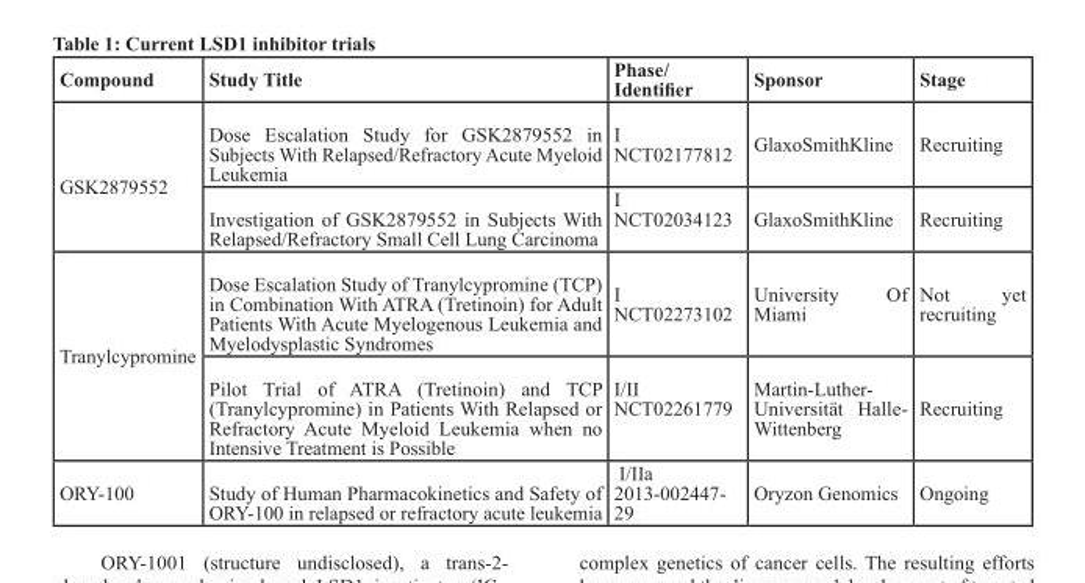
<table><thead><tr><td>Compound</td><td>Study Title</td><td>Phase/ Identifier</td><td>Sponsor</td><td>Stage</td></tr></thead><tbody><tr><td rowspan="2">GSK2879552</td><td>Dose Escalation Study for GSK2879552 in Subjects With Relapsed/Refractory Acute Myeloid Leukemia</td><td>I NCT02177812</td><td>GlaxoSmithKline</td><td>Recruiting</td></tr><tr><td>Investigation of GSK2879552 in Subjects With Relapsed/Refractory Small Cell Lung Carcinoma</td><td>I NCT02034123</td><td>GlaxoSmithKline</td><td>Recruiting</td></tr><tr><td rowspan="2">Tranylcypromine</td><td>Dose Escalation Study of Tranylcypromine (TCP) in Combination With ATRA (Tretinoin) for Adult Patients With Acute Myelogenous Leukemia and Myelodysplastic Syndromes</td><td>I NCT02273102</td><td>University Of Miami</td><td>Not yet recruiting</td></tr><tr><td>Pilot Trial of ATRA (Tretinoin) and TCP (Tranylcypromine) in Patients With Relapsed or Refractory Acute Myeloid Leukemia when no Intensive Treatment is Possible</td><td>I/II NCT02261779</td><td>Martin-Luther- Universität Halle- Wittenberg</td><td>Recruiting</td></tr><tr><td>ORY-100</td><td>Study of Human Pharmacokinetics and Safety of ORY-100 in relapsed or refractory acute leukemia</td><td>I/IIa 2013-002447- 29</td><td>Oryzon Genomics</td><td>Ongoing</td></tr></tbody></table>